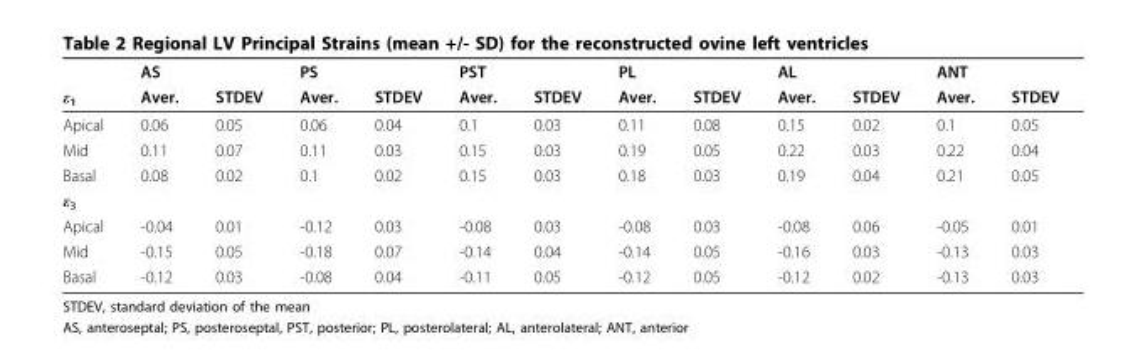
<table><thead><tr><td rowspan="2">ε<sub>1</sub></td><td colspan="2">AS</td><td colspan="2">PS</td><td colspan="2">PST</td><td colspan="2">PL</td><td colspan="2">AL</td><td colspan="2">ANT</td></tr><tr><td>Aver.</td><td>STDEV</td><td>Aver.</td><td>STDEV</td><td>Aver.</td><td>STDEV</td><td>Aver.</td><td>STDEV</td><td>Aver.</td><td>STDEV</td><td>Aver.</td><td>STDEV</td></tr></thead><tbody><tr><td>Apical</td><td>0.06</td><td>0.05</td><td>0.06</td><td>0.04</td><td>0.1</td><td>0.03</td><td>0.11</td><td>0.08</td><td>0.15</td><td>0.02</td><td>0.1</td><td>0.05</td></tr><tr><td>Mid</td><td>0.11</td><td>0.07</td><td>0.11</td><td>0.03</td><td>0.15</td><td>0.03</td><td>0.19</td><td>0.05</td><td>0.22</td><td>0.03</td><td>0.22</td><td>0.04</td></tr><tr><td>Basal</td><td>0.08</td><td>0.02</td><td>0.1</td><td>0.02</td><td>0.15</td><td>0.03</td><td>0.18</td><td>0.03</td><td>0.19</td><td>0.04</td><td>0.21</td><td>0.05</td></tr><tr><td colspan="13">ε<sub>3</sub></td></tr><tr><td>Apical</td><td>-0.04</td><td>0.01</td><td>-0.12</td><td>0.03</td><td>-0.08</td><td>0.03</td><td>-0.08</td><td>0.03</td><td>-0.08</td><td>0.06</td><td>-0.05</td><td>0.01</td></tr><tr><td>Mid</td><td>-0.15</td><td>0.05</td><td>-0.18</td><td>0.07</td><td>-0.14</td><td>0.04</td><td>-0.14</td><td>0.05</td><td>-0.16</td><td>0.03</td><td>-0.13</td><td>0.03</td></tr><tr><td>Basal</td><td>-0.12</td><td>0.03</td><td>-0.08</td><td>0.04</td><td>-0.11</td><td>0.05</td><td>-0.12</td><td>0.05</td><td>-0.12</td><td>0.02</td><td>-0.13</td><td>0.03</td></tr></tbody></table>